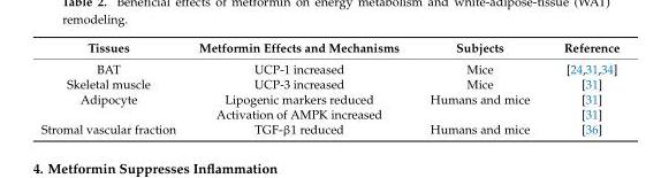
<table><thead><tr><td>Tissues</td><td>Metformin Effects and Mechanisms</td><td>Subjects</td><td>Reference</td></tr></thead><tbody><tr><td>BAT</td><td>UCP-1 increased</td><td>Mice</td><td>[24,31,34]</td></tr><tr><td>Skeletal muscle</td><td>UCP-3 increased</td><td>Mice</td><td>[31]</td></tr><tr><td rowspan="2">Adipocyte</td><td>Lipogenic markers reduced</td><td>Humans and mice</td><td>[31]</td></tr><tr><td>Activation of AMPK increased</td><td></td><td>[31]</td></tr><tr><td>Stromal vascular fraction</td><td>TGF-β1 reduced</td><td>Humans and mice</td><td>[36]</td></tr></tbody></table>